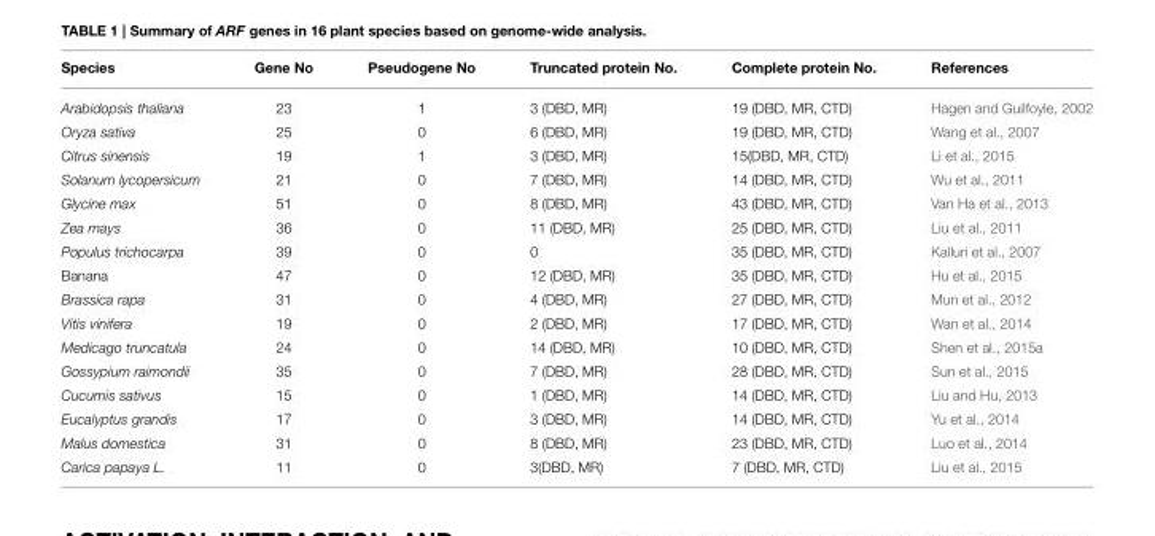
<table><thead><tr><td>Species</td><td>Gene No</td><td>Pseudogene No</td><td>Truncated protein No.</td><td>Complete protein No.</td><td>References</td></tr></thead><tbody><tr><td>Arabidopsis thaliana</td><td>23</td><td>1</td><td>3 (DBD, MR)</td><td>19 (DBD, MR, CTD)</td><td>Hagen and Guilfoyle, 2002</td></tr><tr><td>Oryza sativa</td><td>25</td><td>0</td><td>6 (DBD, MR)</td><td>19 (DBD, MR, CTD)</td><td>Wang et al., 2007</td></tr><tr><td>Citrus sinensis</td><td>19</td><td>1</td><td>3 (DBD, MR)</td><td>15(DBD, MR, CTD)</td><td>Li et al., 2015</td></tr><tr><td>Solanum lycopersicum</td><td>21</td><td>0</td><td>7 (DBD, MR)</td><td>14 (DBD, MR, CTD)</td><td>Wu et al., 2011</td></tr><tr><td>Glycine max</td><td>51</td><td>0</td><td>8 (DBD, MR)</td><td>43 (DBD, MR, CTD)</td><td>Van Ha et al., 2013</td></tr><tr><td>Zea mays</td><td>36</td><td>0</td><td>11 (DBD, MR)</td><td>25 (DBD, MR, CTD)</td><td>Liu et al., 2011</td></tr><tr><td>Populus trichocarpa</td><td>39</td><td>0</td><td>0</td><td>35 (DBD, MR, CTD)</td><td>Kalluri et al., 2007</td></tr><tr><td>Banana</td><td>47</td><td>0</td><td>12 (DBD, MR)</td><td>35 (DBD, MR, CTD)</td><td>Hu et al., 2015</td></tr><tr><td>Brassica rapa</td><td>31</td><td>0</td><td>4 (DBD, MR)</td><td>27 (DBD, MR, CTD)</td><td>Mun et al., 2012</td></tr><tr><td>Vitis vinifera</td><td>19</td><td>0</td><td>2 (DBD, MR)</td><td>17 (DBD, MR, CTD)</td><td>Wan et al., 2014</td></tr><tr><td>Medicago truncatula</td><td>24</td><td>0</td><td>14 (DBD, MR)</td><td>10 (DBD, MR, CTD)</td><td>Shen et al., 2015a</td></tr><tr><td>Gossypium raimondii</td><td>35</td><td>0</td><td>7 (DBD, MR)</td><td>28 (DBD, MR, CTD)</td><td>Sun et al., 2015</td></tr><tr><td>Cucumis sativus</td><td>15</td><td>0</td><td>1 (DBD, MR)</td><td>14 (DBD, MR, CTD)</td><td>Liu and Hu, 2013</td></tr><tr><td>Eucalyptus grandis</td><td>17</td><td>0</td><td>3 (DBD, MR)</td><td>14 (DBD, MR, CTD)</td><td>Yu et al., 2014</td></tr><tr><td>Malus domestica</td><td>31</td><td>0</td><td>8 (DBD, MR)</td><td>23 (DBD, MR, CTD)</td><td>Luo et al., 2014</td></tr><tr><td>Carica papaya L.</td><td>11</td><td>0</td><td>3(DBD, MR)</td><td>7 (DBD, MR, CTD)</td><td>Liu et al., 2015</td></tr></tbody></table>